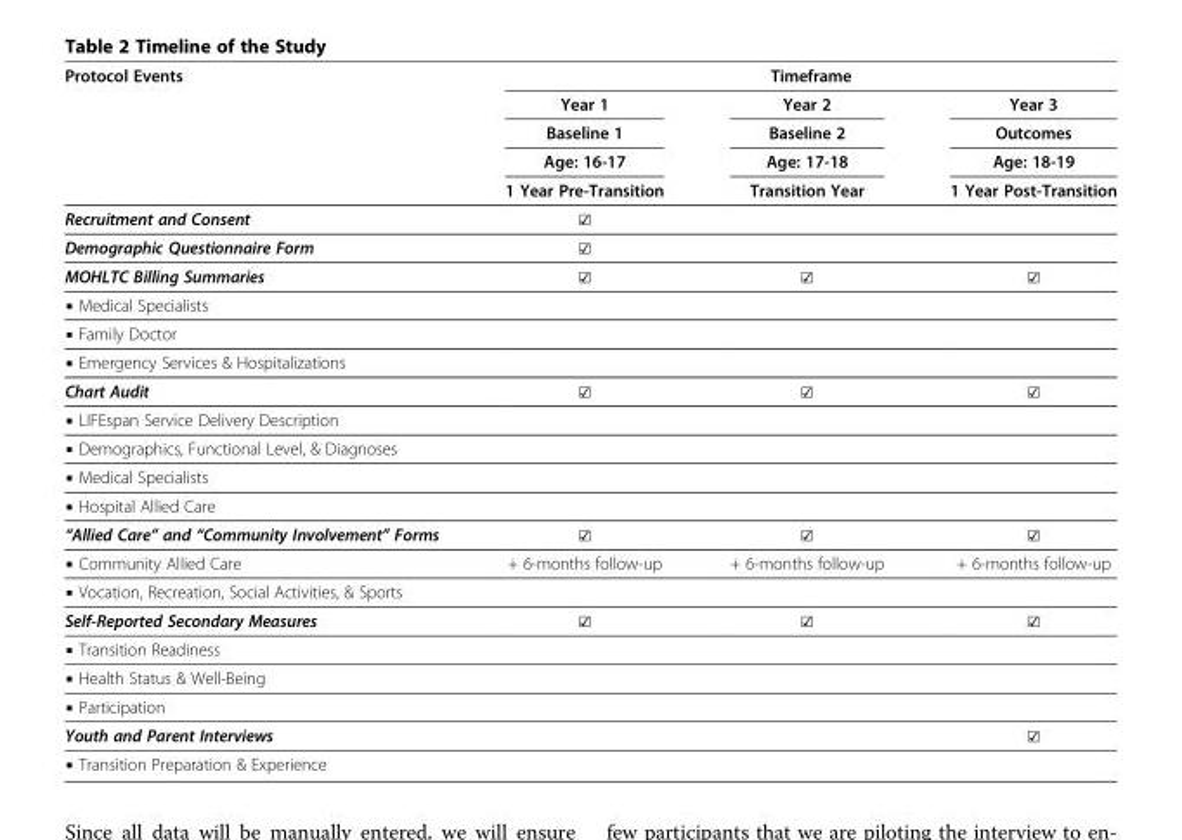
<table><thead><tr><td rowspan="5">Protocol Events</td><td colspan="3">Timeframe</td></tr><tr><td rowspan="4">Year 1 Baseline 1 Age: 16-17 1 Year Pre-Transition</td><td rowspan="4">Year 2 Baseline 2 Age: 17-18 Transition Year</td><td rowspan="4">Year 3 Outcomes Age: 18-19 1 Year Post-Transition</td></tr><tr></tr><tr></tr><tr></tr></thead><tbody><tr><td>Recruitment and Consent</td><td>☑</td><td></td><td></td></tr><tr><td>Demographic Questionnaire Form</td><td>☑</td><td></td><td></td></tr><tr><td>MOHLTC Billing Summaries</td><td>☑</td><td>☑</td><td>☑</td></tr><tr><td colspan="4">▪ Medical Specialists</td></tr><tr><td colspan="4">▪ Family Doctor</td></tr><tr><td colspan="4">▪ Emergency Services &amp; Hospitalizations</td></tr><tr><td>Chart Audit</td><td>☑</td><td>☑</td><td>☑</td></tr><tr><td colspan="4">▪ LIFEspan Service Delivery Description</td></tr><tr><td colspan="4">▪ Demographics, Functional Level, &amp; Diagnoses</td></tr><tr><td colspan="4">▪ Medical Specialists</td></tr><tr><td colspan="4">▪ Hospital Allied Care</td></tr><tr><td>“Allied Care” and “Community Involvement” Forms</td><td>☑</td><td>☑</td><td>☑</td></tr><tr><td>▪ Community Allied Care</td><td>+ 6-months follow-up</td><td>+ 6-months follow-up</td><td>+ 6-months follow-up</td></tr><tr><td colspan="4">▪ Vocation, Recreation, Social Activities, &amp; Sports</td></tr><tr><td>Self-Reported Secondary Measures</td><td>☑</td><td>☑</td><td>☑</td></tr><tr><td colspan="4">▪ Transition Readiness</td></tr><tr><td colspan="4">▪ Health Status &amp; Well-Being</td></tr><tr><td colspan="4">▪ Participation</td></tr><tr><td>Youth and Parent Interviews</td><td></td><td></td><td>☑</td></tr><tr><td>▪ Transition Preparation &amp; Experience</td><td></td><td></td><td></td></tr></tbody></table>